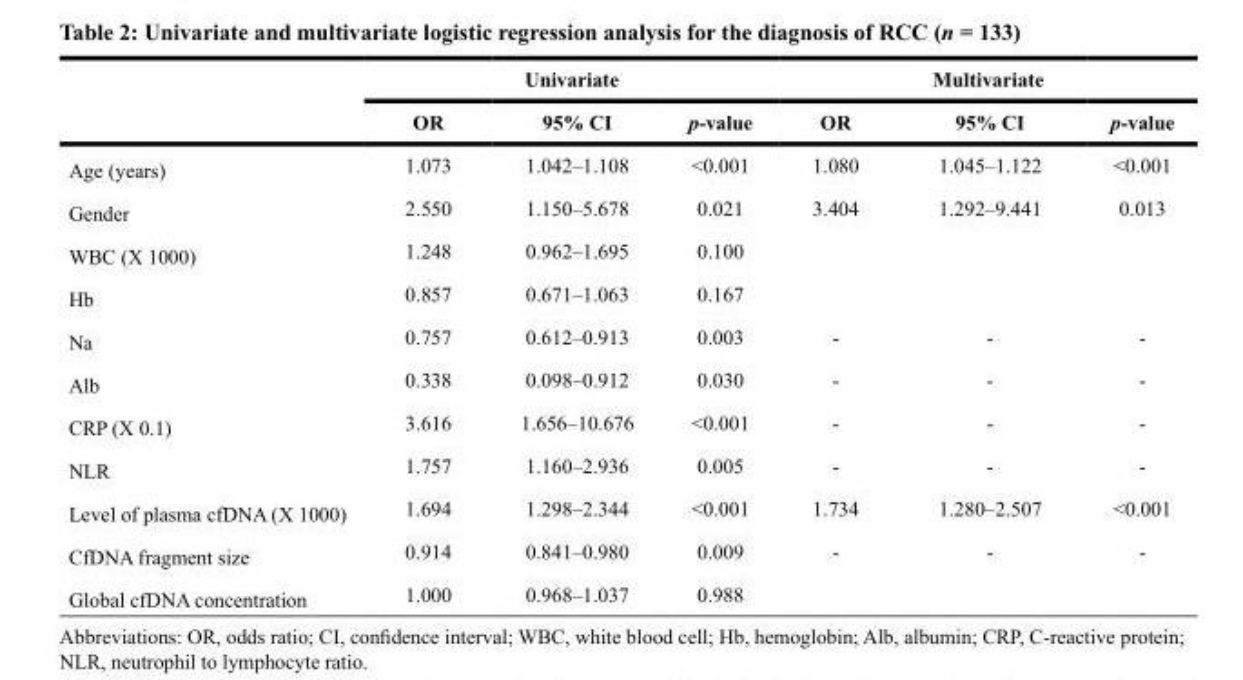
<table><thead><tr><td rowspan="2"></td><td colspan="3">Univariate</td><td colspan="3">Multivariate</td></tr><tr><td>OR</td><td>95% CI</td><td>p-value</td><td>OR</td><td>95% CI</td><td>p-value</td></tr></thead><tbody><tr><td>Age (years)</td><td>1.073</td><td>1.042–1.108</td><td>&lt;0.001</td><td>1.080</td><td>1.045–1.122</td><td>&lt;0.001</td></tr><tr><td>Gender</td><td>2.550</td><td>1.150–5.678</td><td>0.021</td><td>3.404</td><td>1.292–9.441</td><td>0.013</td></tr><tr><td>WBC (X 1000)</td><td>1.248</td><td>0.962–1.695</td><td>0.100</td><td></td><td></td><td></td></tr><tr><td>Hb</td><td>0.857</td><td>0.671–1.063</td><td>0.167</td><td></td><td></td><td></td></tr><tr><td>Na</td><td>0.757</td><td>0.612–0.913</td><td>0.003</td><td>-</td><td>-</td><td>-</td></tr><tr><td>Alb</td><td>0.338</td><td>0.098–0.912</td><td>0.030</td><td>-</td><td>-</td><td>-</td></tr><tr><td>CRP (X 0.1)</td><td>3.616</td><td>1.656–10.676</td><td>&lt;0.001</td><td>-</td><td>-</td><td>-</td></tr><tr><td>NLR</td><td>1.757</td><td>1.160–2.936</td><td>0.005</td><td>-</td><td>-</td><td>-</td></tr><tr><td>Level of plasma cfDNA (X 1000)</td><td>1.694</td><td>1.298–2.344</td><td>&lt;0.001</td><td>1.734</td><td>1.280–2.507</td><td>&lt;0.001</td></tr><tr><td>CfDNA fragment size</td><td>0.914</td><td>0.841–0.980</td><td>0.009</td><td>-</td><td>-</td><td>-</td></tr><tr><td>Global cfDNA concentration</td><td>1.000</td><td>0.968–1.037</td><td>0.988</td><td></td><td></td><td></td></tr></tbody></table>